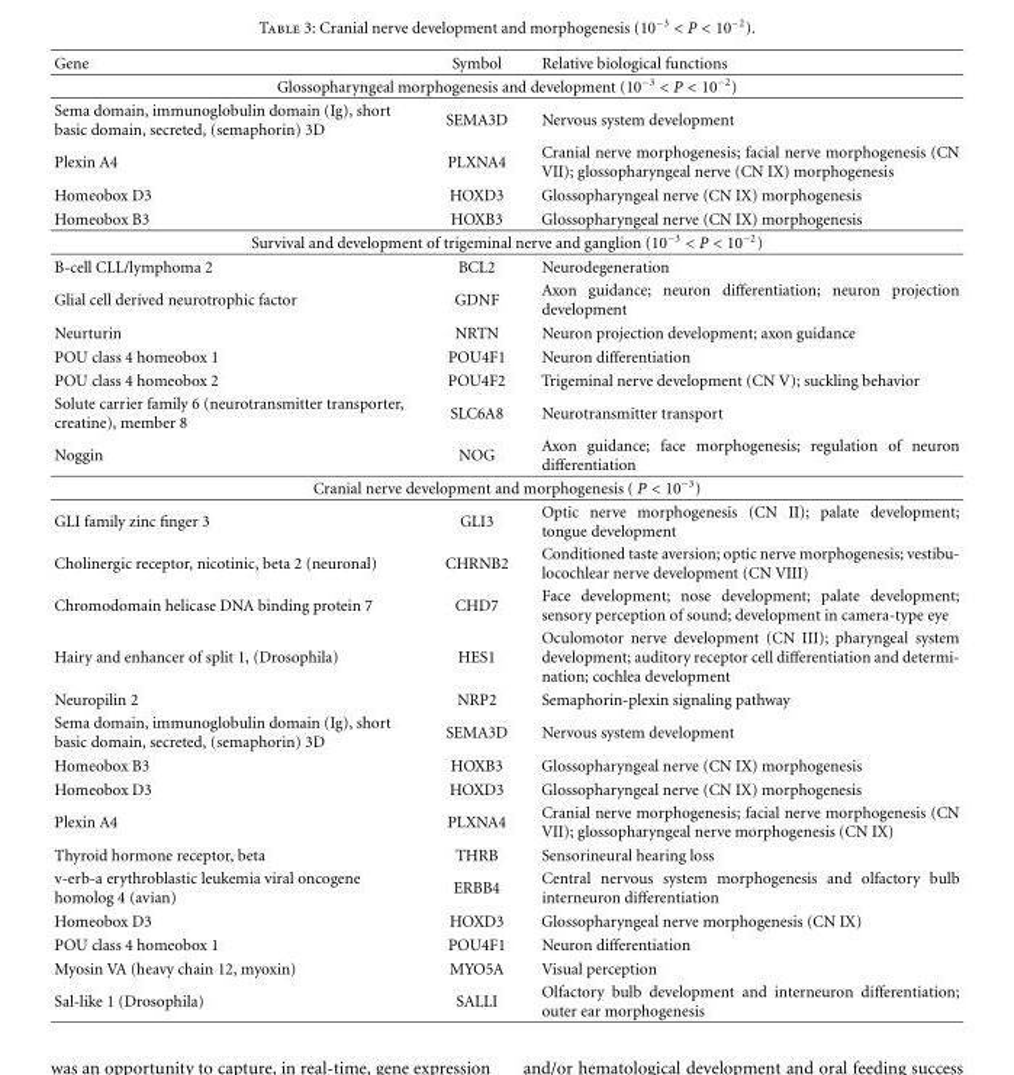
<table><thead><tr><td>Gene</td><td>Symbol</td><td>Relative biological functions</td></tr></thead><tbody><tr><td colspan="3">Glossopharyngeal morphogenesis and development (10<sup>−3</sup> &lt; P &lt; 10<sup>−2</sup>)</td></tr><tr><td>Sema domain, immunoglobulin domain (Ig), short basic domain, secreted, (semaphorin) 3D</td><td>SEMA3D</td><td>Nervous system development</td></tr><tr><td>Plexin A4</td><td>PLXNA4</td><td>Cranial nerve morphogenesis; facial nerve morphogenesis (CN VII); glossopharyngeal nerve (CN IX) morphogenesis</td></tr><tr><td>Homeobox D3</td><td>HOXD3</td><td>Glossopharyngeal nerve (CN IX) morphogenesis</td></tr><tr><td>Homeobox B3</td><td>HOXB3</td><td>Glossopharyngeal nerve (CN IX) morphogenesis</td></tr><tr><td colspan="3">Survival and development of trigeminal nerve and ganglion (10<sup>−3</sup> &lt; P &lt; 10<sup>−2</sup>)</td></tr><tr><td>B-cell CLL/lymphoma 2</td><td>BCL2</td><td>Neurodegeneration</td></tr><tr><td>Glial cell derived neurotrophic factor</td><td>GDNF</td><td>Axon guidance; neuron differentiation; neuron projection development</td></tr><tr><td>Neurturin</td><td>NRTN</td><td>Neuron projection development; axon guidance</td></tr><tr><td>POU class 4 homeobox 1</td><td>POU4F1</td><td>Neuron differentiation</td></tr><tr><td>POU class 4 homeobox 2</td><td>POU4F2</td><td>Trigeminal nerve development (CN V); suckling behavior</td></tr><tr><td>Solute carrier family 6 (neurotransmitter transporter, creatine), member 8</td><td>SLC6A8</td><td>Neurotransmitter transport</td></tr><tr><td>Noggin</td><td>NOG</td><td>Axon guidance; face morphogenesis; regulation of neuron differentiation</td></tr><tr><td colspan="3">Cranial nerve development and morphogenesis ( P &lt; 10<sup>−3</sup>)</td></tr><tr><td>GLI family zinc finger 3</td><td>GLI3</td><td>Optic nerve morphogenesis (CN II); palate development; tongue development</td></tr><tr><td>Cholinergic receptor, nicotinic, beta 2 (neuronal)</td><td>CHRNB2</td><td>Conditioned taste aversion; optic nerve morphogenesis; vestibu- locochlear nerve development (CN VIII)</td></tr><tr><td>Chromodomain helicase DNA binding protein 7</td><td>CHD7</td><td>Face development; nose development; palate development; sensory perception of sound; development in camera-type eye</td></tr><tr><td>Hairy and enhancer of split 1, (Drosophila)</td><td>HES1</td><td>Oculomotor nerve development (CN III); pharyngeal system development; auditory receptor cell differentiation and determi- nation; cochlea development</td></tr><tr><td>Neuropilin 2</td><td>NRP2</td><td>Semaphorin-plexin signaling pathway</td></tr><tr><td>Sema domain, immunoglobulin domain (Ig), short basic domain, secreted, (semaphorin) 3D</td><td>SEMA3D</td><td>Nervous system development</td></tr><tr><td>Homeobox B3</td><td>HOXB3</td><td>Glossopharyngeal nerve (CN IX) morphogenesis</td></tr><tr><td>Homeobox D3</td><td>HOXD3</td><td>Glossopharyngeal nerve (CN IX) morphogenesis</td></tr><tr><td>Plexin A4</td><td>PLXNA4</td><td>Cranial nerve morphogenesis; facial nerve morphogenesis (CN VII); glossopharyngeal nerve morphogenesis (CN IX)</td></tr><tr><td>Thyroid hormone receptor, beta</td><td>THRB</td><td>Sensorineural hearing loss</td></tr><tr><td>v-erb-a erythroblastic leukemia viral oncogene homolog 4 (avian)</td><td>ERBB4</td><td>Central nervous system morphogenesis and olfactory bulb interneuron differentiation</td></tr><tr><td>Homeobox D3</td><td>HOXD3</td><td>Glossopharyngeal nerve morphogenesis (CN IX)</td></tr><tr><td>POU class 4 homeobox 1</td><td>POU4F1</td><td>Neuron differentiation</td></tr><tr><td>Myosin VA (heavy chain 12, myoxin)</td><td>MYO5A</td><td>Visual perception</td></tr><tr><td>Sal-like 1 (Drosophila)</td><td>SALLI</td><td>Olfactory bulb development and interneuron differentiation; outer ear morphogenesis</td></tr></tbody></table>